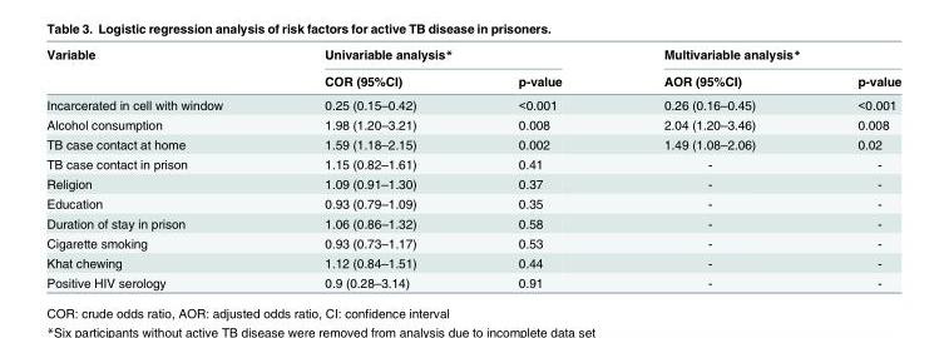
<table><thead><tr><td rowspan="2">Variable</td><td colspan="2">Univariable analysis*</td><td colspan="2">Multivariable analysis*</td></tr><tr><td>COR (95%CI)</td><td>p-value</td><td>AOR (95%CI)</td><td>p-value</td></tr></thead><tbody><tr><td>Incarcerated in cell with window</td><td>0.25 (0.15–0.42)</td><td>&lt;0.001</td><td>0.26 (0.16–0.45)</td><td>&lt;0.001</td></tr><tr><td>Alcohol consumption</td><td>1.98 (1.20–3.21)</td><td>0.008</td><td>2.04 (1.20–3.46)</td><td>0.008</td></tr><tr><td>TB case contact at home</td><td>1.59 (1.18–2.15)</td><td>0.002</td><td>1.49 (1.08–2.06)</td><td>0.02</td></tr><tr><td>TB case contact in prison</td><td>1.15 (0.82–1.61)</td><td>0.41</td><td>-</td><td>-</td></tr><tr><td>Religion</td><td>1.09 (0.91–1.30)</td><td>0.37</td><td>-</td><td>-</td></tr><tr><td>Education</td><td>0.93 (0.79–1.09)</td><td>0.35</td><td>-</td><td>-</td></tr><tr><td>Duration of stay in prison</td><td>1.06 (0.86–1.32)</td><td>0.58</td><td>-</td><td>-</td></tr><tr><td>Cigarette smoking</td><td>0.93 (0.73–1.17)</td><td>0.53</td><td>-</td><td>-</td></tr><tr><td>Khat chewing</td><td>1.12 (0.84–1.51)</td><td>0.44</td><td>-</td><td>-</td></tr><tr><td>Positive HIV serology</td><td>0.9 (0.28–3.14)</td><td>0.91</td><td>-</td><td>-</td></tr></tbody></table>